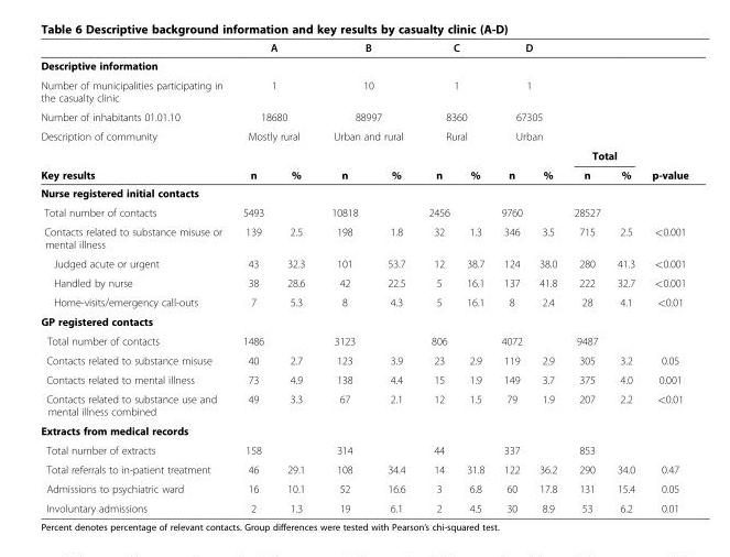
<table><thead><tr><td></td><td colspan="2">A</td><td colspan="2">B</td><td colspan="2">C</td><td colspan="2">D</td><td></td><td></td><td></td></tr></thead><tbody><tr><td colspan="12">Descriptive information</td></tr><tr><td>Number of municipalities participating in the casualty clinic</td><td colspan="2">1</td><td colspan="2">10</td><td colspan="2">1</td><td colspan="2">1</td><td></td><td></td><td></td></tr><tr><td>Number of inhabitants 01.01.10</td><td colspan="2">18680</td><td colspan="2">88997</td><td colspan="2">8360</td><td colspan="2">67305</td><td></td><td></td><td></td></tr><tr><td rowspan="2">Description of community</td><td colspan="2">Mostly rural</td><td colspan="2">Urban and rural</td><td colspan="2">Rural</td><td colspan="2">Urban</td><td></td><td></td><td></td></tr><tr><td></td><td></td><td></td><td></td><td></td><td></td><td></td><td></td><td colspan="2">Total</td><td></td></tr><tr><td>Key results</td><td>n</td><td>%</td><td>n</td><td>%</td><td>n</td><td>%</td><td>n</td><td>%</td><td>n</td><td>%</td><td>p-value</td></tr><tr><td colspan="12">Nurse registered initial contacts</td></tr><tr><td>Total number of contacts</td><td>5493</td><td></td><td>10818</td><td></td><td>2456</td><td></td><td>9760</td><td></td><td>28527</td><td></td><td></td></tr><tr><td>Contacts related to substance misuse or mental illness</td><td>139</td><td>2.5</td><td>198</td><td>1.8</td><td>32</td><td>1.3</td><td>346</td><td>3.5</td><td>715</td><td>2.5</td><td>&lt;0.001</td></tr><tr><td>Judged acute or urgent</td><td>43</td><td>32.3</td><td>101</td><td>53.7</td><td>12</td><td>38.7</td><td>124</td><td>38.0</td><td>280</td><td>41.3</td><td>&lt;0.001</td></tr><tr><td>Handled by nurse</td><td>38</td><td>28.6</td><td>42</td><td>22.5</td><td>5</td><td>16.1</td><td>137</td><td>41.8</td><td>222</td><td>32.7</td><td>&lt;0.001</td></tr><tr><td>Home-visits/emergency call-outs</td><td>7</td><td>5.3</td><td>8</td><td>4.3</td><td>5</td><td>16.1</td><td>8</td><td>2.4</td><td>28</td><td>4.1</td><td>&lt;0.01</td></tr><tr><td colspan="12">GP registered contacts</td></tr><tr><td>Total number of contacts</td><td>1486</td><td></td><td>3123</td><td></td><td>806</td><td></td><td>4072</td><td></td><td>9487</td><td></td><td></td></tr><tr><td>Contacts related to substance misuse</td><td>40</td><td>2.7</td><td>123</td><td>3.9</td><td>23</td><td>2.9</td><td>119</td><td>2.9</td><td>305</td><td>3.2</td><td>0.05</td></tr><tr><td>Contacts related to mental illness</td><td>73</td><td>4.9</td><td>138</td><td>4.4</td><td>15</td><td>1.9</td><td>149</td><td>3.7</td><td>375</td><td>4.0</td><td>0.001</td></tr><tr><td>Contacts related to substance use and mental illness combined</td><td>49</td><td>3.3</td><td>67</td><td>2.1</td><td>12</td><td>1.5</td><td>79</td><td>1.9</td><td>207</td><td>2.2</td><td>&lt;0.01</td></tr><tr><td colspan="12">Extracts from medical records</td></tr><tr><td>Total number of extracts</td><td>158</td><td></td><td>314</td><td></td><td>44</td><td></td><td>337</td><td></td><td>853</td><td></td><td></td></tr><tr><td>Total referrals to in-patient treatment</td><td>46</td><td>29.1</td><td>108</td><td>34.4</td><td>14</td><td>31.8</td><td>122</td><td>36.2</td><td>290</td><td>34.0</td><td>0.47</td></tr><tr><td>Admissions to psychiatric ward</td><td>16</td><td>10.1</td><td>52</td><td>16.6</td><td>3</td><td>6.8</td><td>60</td><td>17.8</td><td>131</td><td>15.4</td><td>0.05</td></tr><tr><td>Involuntary admissions</td><td>2</td><td>1.3</td><td>19</td><td>6.1</td><td>2</td><td>4.5</td><td>30</td><td>8.9</td><td>53</td><td>6.2</td><td>0.01</td></tr></tbody></table>